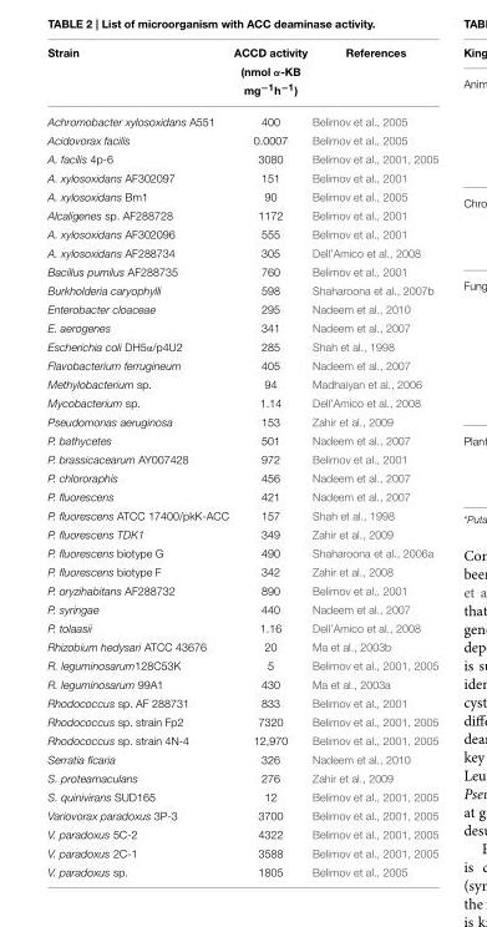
<table><thead><tr><td>Strain</td><td>ACCD activity (nmol α-KB mg<sup>−1</sup>h<sup>−1</sup>)</td><td>References</td></tr></thead><tbody><tr><td>Achromobacter xylosoxidans A551</td><td>400</td><td>Belimov et al., 2005</td></tr><tr><td>Acidovorax facilis</td><td>0.0007</td><td>Belimov et al., 2005</td></tr><tr><td>A. facilis 4p-6</td><td>3080</td><td>Belimov et al., 2001, 2005</td></tr><tr><td>A. xylosoxidans AF302097</td><td>151</td><td>Belimov et al., 2001</td></tr><tr><td>A. xylosoxidans Bm1</td><td>90</td><td>Belimov et al., 2005</td></tr><tr><td>Alcaligenes sp. AF288728</td><td>1172</td><td>Belimov et al., 2001</td></tr><tr><td>A. xylosoxidans AF302096</td><td>555</td><td>Belimov et al., 2001</td></tr><tr><td>A. xylosoxidans AF288734</td><td>305</td><td>Dell’Amico et al., 2008</td></tr><tr><td>Bacillus pumilus AF288735</td><td>760</td><td>Belimov et al., 2001</td></tr><tr><td>Burkholderia caryophylli</td><td>598</td><td>Shaharoona et al., 2007b</td></tr><tr><td>Enterobacter cloaceae</td><td>295</td><td>Nadeem et al., 2010</td></tr><tr><td>E. aerogenes</td><td>341</td><td>Nadeem et al., 2007</td></tr><tr><td>Escherichia coli DH5α/p4U2</td><td>285</td><td>Shah et al., 1998</td></tr><tr><td>Flavobacterium ferrugineum</td><td>405</td><td>Nadeem et al., 2007</td></tr><tr><td>Methylobacterium sp.</td><td>94</td><td>Madhaiyan et al., 2006</td></tr><tr><td>Mycobacterium sp.</td><td>1.14</td><td>Dell’Amico et al., 2008</td></tr><tr><td>Pseudomonas aeruginosa</td><td>153</td><td>Zahir et al., 2009</td></tr><tr><td>P. bathycetes</td><td>501</td><td>Nadeem et al., 2007</td></tr><tr><td>P. brassicacearum AY007428</td><td>972</td><td>Belimov et al., 2001</td></tr><tr><td>P. chlororaphis</td><td>456</td><td>Nadeem et al., 2007</td></tr><tr><td>P. fluorescens</td><td>421</td><td>Nadeem et al., 2007</td></tr><tr><td>P. fluorescens ATCC 17400/pkK-ACC</td><td>157</td><td>Shah et al., 1998</td></tr><tr><td>P. fluorescens TDK1</td><td>349</td><td>Zahir et al., 2009</td></tr><tr><td>P. fluorescens biotype G</td><td>490</td><td>Shaharoona et al., 2006a</td></tr><tr><td>P. fluorescens biotype F</td><td>342</td><td>Zahir et al., 2008</td></tr><tr><td>P. oryzihabitans AF288732</td><td>890</td><td>Belimov et al., 2001</td></tr><tr><td>P. syringae</td><td>440</td><td>Nadeem et al., 2007</td></tr><tr><td>P. tolaasii</td><td>1.16</td><td>Dell’Amico et al., 2008</td></tr><tr><td>Rhizobium hedysari ATCC 43676</td><td>20</td><td>Ma et al., 2003b</td></tr><tr><td>R. leguminosarum128C53K</td><td>5</td><td>Belimov et al., 2001, 2005</td></tr><tr><td>R. leguminosarum 99A1</td><td>430</td><td>Ma et al., 2003a</td></tr><tr><td>Rhodococcus sp. AF 288731</td><td>833</td><td>Belimov et al., 2001</td></tr><tr><td>Rhodococcus sp. strain Fp2</td><td>7320</td><td>Belimov et al., 2001, 2005</td></tr><tr><td>Rhodococcus sp. strain 4N-4</td><td>12,970</td><td>Belimov et al., 2001, 2005</td></tr><tr><td>Serratia ficaria</td><td>326</td><td>Nadeem et al., 2010</td></tr><tr><td>S. proteamaculans</td><td>276</td><td>Zahir et al., 2009</td></tr><tr><td>S. quinivirans SUD165</td><td>12</td><td>Belimov et al., 2001, 2005</td></tr><tr><td>Variovorax paradoxus 3P-3</td><td>3700</td><td>Belimov et al., 2001, 2005</td></tr><tr><td>V. paradoxus 5C-2</td><td>4322</td><td>Belimov et al., 2001, 2005</td></tr><tr><td>V. paradoxus 2C-1</td><td>3588</td><td>Belimov et al., 2001, 2005</td></tr><tr><td>V. paradoxus sp.</td><td>1805</td><td>Belimov et al., 2005</td></tr></tbody></table>